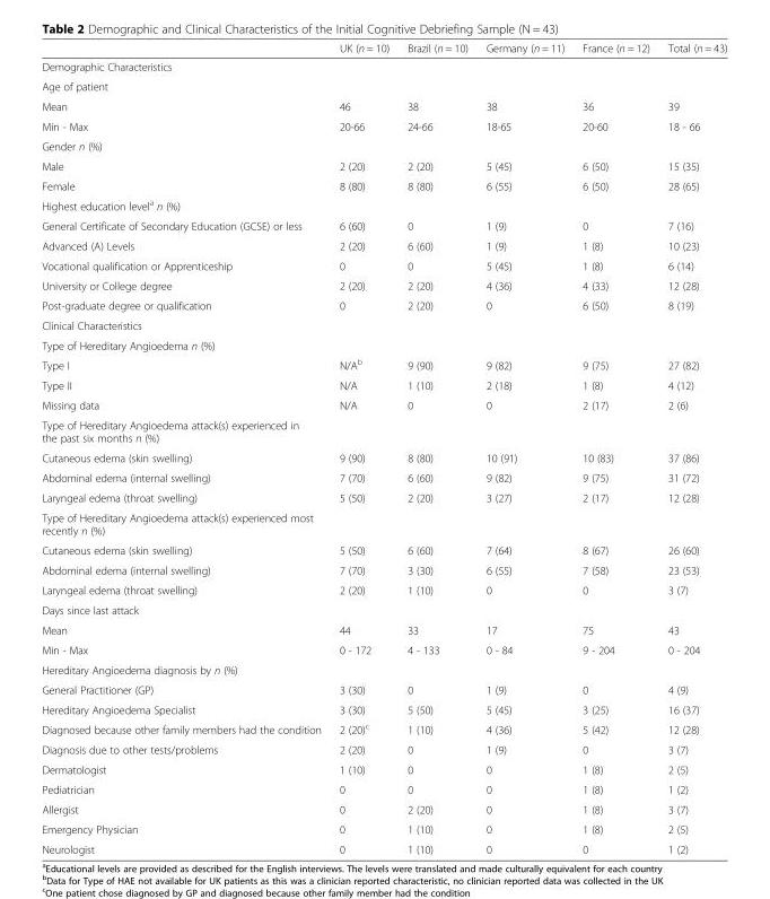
<table><thead><tr><td></td><td>UK (n = 10)</td><td>Brazil (n = 10)</td><td>Germany (n = 11)</td><td>France (n = 12)</td><td>Total (n = 43)</td></tr></thead><tbody><tr><td colspan="6">Demographic Characteristics</td></tr><tr><td colspan="6">Age of patient</td></tr><tr><td>Mean</td><td>46</td><td>38</td><td>38</td><td>36</td><td>39</td></tr><tr><td>Min - Max</td><td>20-66</td><td>24-66</td><td>18-65</td><td>20-60</td><td>18 - 66</td></tr><tr><td colspan="6">Gender n (%)</td></tr><tr><td>Male</td><td>2 (20)</td><td>2 (20)</td><td>5 (45)</td><td>6 (50)</td><td>15 (35)</td></tr><tr><td>Female</td><td>8 (80)</td><td>8 (80)</td><td>6 (55)</td><td>6 (50)</td><td>28 (65)</td></tr><tr><td colspan="6">Highest education level<sup>a</sup> n (%)</td></tr><tr><td>General Certificate of Secondary Education (GCSE) or less</td><td>6 (60)</td><td>0</td><td>1 (9)</td><td>0</td><td>7 (16)</td></tr><tr><td>Advanced (A) Levels</td><td>2 (20)</td><td>6 (60)</td><td>1 (9)</td><td>1 (8)</td><td>10 (23)</td></tr><tr><td>Vocational qualification or Apprenticeship</td><td>0</td><td>0</td><td>5 (45)</td><td>1 (8)</td><td>6 (14)</td></tr><tr><td>University or College degree</td><td>2 (20)</td><td>2 (20)</td><td>4 (36)</td><td>4 (33)</td><td>12 (28)</td></tr><tr><td>Post-graduate degree or qualification</td><td>0</td><td>2 (20)</td><td>0</td><td>6 (50)</td><td>8 (19)</td></tr><tr><td colspan="6">Clinical Characteristics</td></tr><tr><td colspan="6">Type of Hereditary Angioedema n (%)</td></tr><tr><td>Type I</td><td>N/A<sup>b</sup></td><td>9 (90)</td><td>9 (82)</td><td>9 (75)</td><td>27 (82)</td></tr><tr><td>Type II</td><td>N/A</td><td>1 (10)</td><td>2 (18)</td><td>1 (8)</td><td>4 (12)</td></tr><tr><td>Missing data</td><td>N/A</td><td>0</td><td>0</td><td>2 (17)</td><td>2 (6)</td></tr><tr><td colspan="6">Type of Hereditary Angioedema attack(s) experienced in the past six months n (%)</td></tr><tr><td>Cutaneous edema (skin swelling)</td><td>9 (90)</td><td>8 (80)</td><td>10 (91)</td><td>10 (83)</td><td>37 (86)</td></tr><tr><td>Abdominal edema (internal swelling)</td><td>7 (70)</td><td>6 (60)</td><td>9 (82)</td><td>9 (75)</td><td>31 (72)</td></tr><tr><td>Laryngeal edema (throat swelling)</td><td>5 (50)</td><td>2 (20)</td><td>3 (27)</td><td>2 (17)</td><td>12 (28)</td></tr><tr><td colspan="6">Type of Hereditary Angioedema attack(s) experienced most recently n (%)</td></tr><tr><td>Cutaneous edema (skin swelling)</td><td>5 (50)</td><td>6 (60)</td><td>7 (64)</td><td>8 (67)</td><td>26 (60)</td></tr><tr><td>Abdominal edema (internal swelling)</td><td>7 (70)</td><td>3 (30)</td><td>6 (55)</td><td>7 (58)</td><td>23 (53)</td></tr><tr><td>Laryngeal edema (throat swelling)</td><td>2 (20)</td><td>1 (10)</td><td>0</td><td>0</td><td>3 (7)</td></tr><tr><td colspan="6">Days since last attack</td></tr><tr><td>Mean</td><td>44</td><td>33</td><td>17</td><td>75</td><td>43</td></tr><tr><td>Min - Max</td><td>0 - 172</td><td>4 - 133</td><td>0 - 84</td><td>9 - 204</td><td>0 - 204</td></tr><tr><td colspan="6">Hereditary Angioedema diagnosis by n (%)</td></tr><tr><td>General Practitioner (GP)</td><td>3 (30)</td><td>0</td><td>1 (9)</td><td>0</td><td>4 (9)</td></tr><tr><td>Hereditary Angioedema Specialist</td><td>3 (30)</td><td>5 (50)</td><td>5 (45)</td><td>3 (25)</td><td>16 (37)</td></tr><tr><td>Diagnosed because other family members had the condition</td><td>2 (20)<sup>c</sup></td><td>1 (10)</td><td>4 (36)</td><td>5 (42)</td><td>12 (28)</td></tr><tr><td>Diagnosis due to other tests/problems</td><td>2 (20)</td><td>0</td><td>1 (9)</td><td>0</td><td>3 (7)</td></tr><tr><td>Dermatologist</td><td>1 (10)</td><td>0</td><td>0</td><td>1 (8)</td><td>2 (5)</td></tr><tr><td>Pediatrician</td><td>0</td><td>0</td><td>0</td><td>1 (8)</td><td>1 (2)</td></tr><tr><td>Allergist</td><td>0</td><td>2 (20)</td><td>0</td><td>1 (8)</td><td>3 (7)</td></tr><tr><td>Emergency Physician</td><td>0</td><td>1 (10)</td><td>0</td><td>1 (8)</td><td>2 (5)</td></tr><tr><td>Neurologist</td><td>0</td><td>1 (10)</td><td>0</td><td>0</td><td>1 (2)</td></tr></tbody></table>